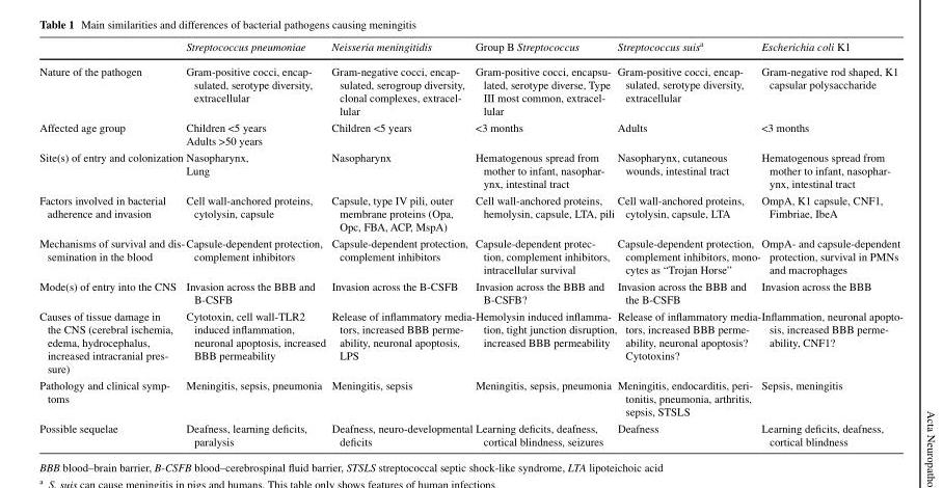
<table><thead><tr><td></td><td>Streptococcus pneumoniae</td><td>Neisseria meningitidis</td><td>Group B Streptococcus</td><td>Streptococcus suis<sup>a</sup></td><td>Escherichia coli K1</td></tr></thead><tbody><tr><td>Nature of the pathogen</td><td>Gram-positive cocci, encap- sulated, serotype diversity, extracellular</td><td>Gram-negative cocci, encap- sulated, serogroup diversity, clonal complexes, extracel- lular</td><td>Gram-positive cocci, encapsu- lated, serotype diverse, Type III most common, extracel- lular</td><td>Gram-positive cocci, encap- sulated, serotype diversity, extracellular</td><td>Gram-negative rod shaped, K1 capsular polysaccharide</td></tr><tr><td>Affected age group</td><td>Children &lt;5 years Adults &gt;50 years</td><td>Children &lt;5 years</td><td>&lt;3 months</td><td>Adults</td><td>&lt;3 months</td></tr><tr><td>Site(s) of entry and colonization</td><td>Nasopharynx, Lung</td><td>Nasopharynx</td><td>Hematogenous spread from mother to infant, nasophar- ynx, intestinal tract</td><td>Nasopharynx, cutaneous wounds, intestinal tract</td><td>Hematogenous spread from mother to infant, nasophar- ynx, intestinal tract</td></tr><tr><td>Factors involved in bacterial adherence and invasion</td><td>Cell wall-anchored proteins, cytolysin, capsule</td><td>Capsule, type IV pili, outer membrane proteins (Opa, Opc, FBA, ACP, MspA)</td><td>Cell wall-anchored proteins, hemolysin, capsule, LTA, pili</td><td>Cell wall-anchored proteins, cytolysin, capsule, LTA</td><td>OmpA, K1 capsule, CNF1, Fimbriae, IbeA</td></tr><tr><td>Mechanisms of survival and dis- semination in the blood</td><td>Capsule-dependent protection, complement inhibitors</td><td>Capsule-dependent protection, complement inhibitors</td><td>Capsule-dependent protec- tion, complement inhibitors, intracellular survival</td><td>Capsule-dependent protection, complement inhibitors, mono- cytes as “Trojan Horse”</td><td>OmpA- and capsule-dependent protection, survival in PMNs and macrophages</td></tr><tr><td>Mode(s) of entry into the CNS</td><td>Invasion across the BBB and B-CSFB</td><td>Invasion across the B-CSFB</td><td>Invasion across the BBB and B-CSFB?</td><td>Invasion across the BBB and the B-CSFB</td><td>Invasion across the BBB</td></tr><tr><td>Causes of tissue damage in the CNS (cerebral ischemia, edema, hydrocephalus, increased intracranial pres- sure)</td><td>Cytotoxin, cell wall-TLR2 induced inflammation, neuronal apoptosis, increased BBB permeability</td><td>Release of inflammatory media- tors, increased BBB perme- ability, neuronal apoptosis, LPS</td><td>Hemolysin induced inflamma- tion, tight junction disruption, increased BBB permeability</td><td>Release of inflammatory media- tors, increased BBB perme- ability, neuronal apoptosis? Cytotoxins?</td><td>Inflammation, neuronal apopto- sis, increased BBB perme- ability, CNF1?</td></tr><tr><td>Pathology and clinical symp- toms</td><td>Meningitis, sepsis, pneumonia</td><td>Meningitis, sepsis</td><td>Meningitis, sepsis, pneumonia</td><td>Meningitis, endocarditis, peri- tonitis, pneumonia, arthritis, sepsis, STSLS</td><td>Sepsis, meningitis</td></tr><tr><td>Possible sequelae</td><td>Deafness, learning deficits, paralysis</td><td>Deafness, neuro-developmental deficits</td><td>Learning deficits, deafness, cortical blindness, seizures</td><td>Deafness</td><td>Learning deficits, deafness, cortical blindness</td></tr></tbody></table>